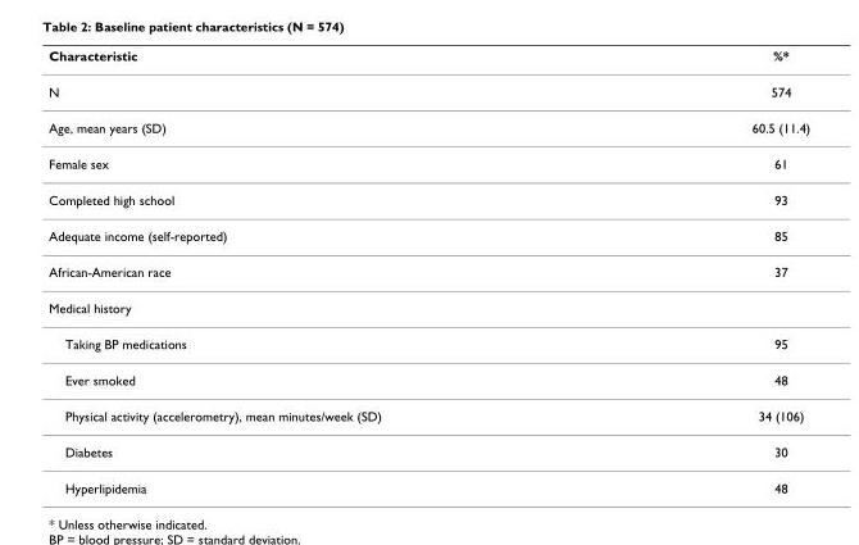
<table><thead><tr><td>Characteristic</td><td>%*</td></tr></thead><tbody><tr><td>N</td><td>574</td></tr><tr><td>Age, mean years (SD)</td><td>60.5 (11.4)</td></tr><tr><td>Female sex</td><td>61</td></tr><tr><td>Completed high school</td><td>93</td></tr><tr><td>Adequate income (self-reported)</td><td>85</td></tr><tr><td>African-American race</td><td>37</td></tr><tr><td colspan="2">Medical history</td></tr><tr><td>Taking BP medications</td><td>95</td></tr><tr><td>Ever smoked</td><td>48</td></tr><tr><td>Physical activity (accelerometry), mean minutes/week (SD)</td><td>34 (106)</td></tr><tr><td>Diabetes</td><td>30</td></tr><tr><td>Hyperlipidemia</td><td>48</td></tr></tbody></table>